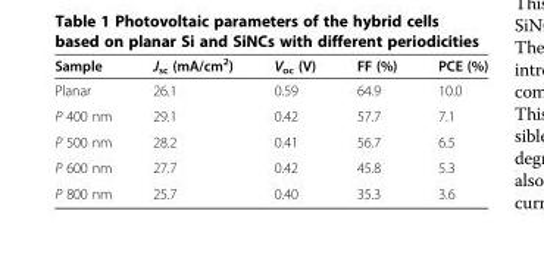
<table><thead><tr><td>Sample</td><td>J<sub>sc</sub> (mA/cm<sup>2</sup>)</td><td>V<sub>oc</sub> (V)</td><td>FF (%)</td><td>PCE (%)</td></tr></thead><tbody><tr><td>Planar</td><td>26.1</td><td>0.59</td><td>64.9</td><td>10.0</td></tr><tr><td>P 400 nm</td><td>29.1</td><td>0.42</td><td>57.7</td><td>7.1</td></tr><tr><td>P 500 nm</td><td>28.2</td><td>0.41</td><td>56.7</td><td>6.5</td></tr><tr><td>P 600 nm</td><td>27.7</td><td>0.42</td><td>45.8</td><td>5.3</td></tr><tr><td>P 800 nm</td><td>25.7</td><td>0.40</td><td>35.3</td><td>3.6</td></tr></tbody></table>